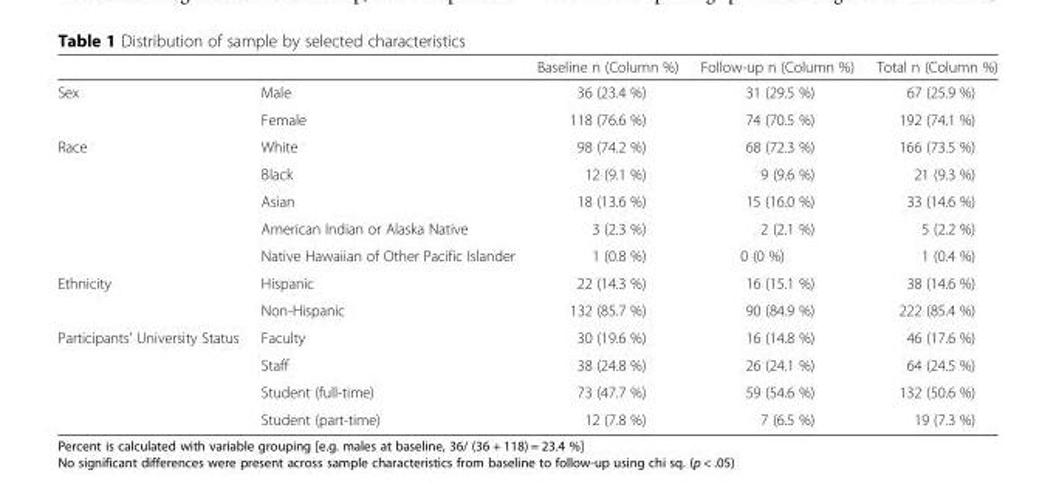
<table><thead><tr><td></td><td></td><td>Baseline n (Column %)</td><td>Follow-up n (Column %)</td><td>Total n (Column %)</td></tr></thead><tbody><tr><td rowspan="2">Sex</td><td>Male</td><td>36 (23.4 %)</td><td>31 (29.5 %)</td><td>67 (25.9 %)</td></tr><tr><td>Female</td><td>118 (76.6 %)</td><td>74 (70.5 %)</td><td>192 (74.1 %)</td></tr><tr><td rowspan="5">Race</td><td>White</td><td>98 (74.2 %)</td><td>68 (72.3 %)</td><td>166 (73.5 %)</td></tr><tr><td>Black</td><td>12 (9.1 %)</td><td>9 (9.6 %)</td><td>21 (9.3 %)</td></tr><tr><td>Asian</td><td>18 (13.6 %)</td><td>15 (16.0 %)</td><td>33 (14.6 %)</td></tr><tr><td>American Indian or Alaska Native</td><td>3 (2.3 %)</td><td>2 (2.1 %)</td><td>5 (2.2 %)</td></tr><tr><td>Native Hawaiian of Other Pacific Islander</td><td>1 (0.8 %)</td><td>0 (0 %)</td><td>1 (0.4 %)</td></tr><tr><td rowspan="2">Ethnicity</td><td>Hispanic</td><td>22 (14.3 %)</td><td>16 (15.1 %)</td><td>38 (14.6 %)</td></tr><tr><td>Non-Hispanic</td><td>132 (85.7 %)</td><td>90 (84.9 %)</td><td>222 (85.4 %)</td></tr><tr><td rowspan="4">Participants’ University Status</td><td>Faculty</td><td>30 (19.6 %)</td><td>16 (14.8 %)</td><td>46 (17.6 %)</td></tr><tr><td>Staff</td><td>38 (24.8 %)</td><td>26 (24.1 %)</td><td>64 (24.5 %)</td></tr><tr><td>Student (full-time)</td><td>73 (47.7 %)</td><td>59 (54.6 %)</td><td>132 (50.6 %)</td></tr><tr><td>Student (part-time)</td><td>12 (7.8 %)</td><td>7 (6.5 %)</td><td>19 (7.3 %)</td></tr></tbody></table>